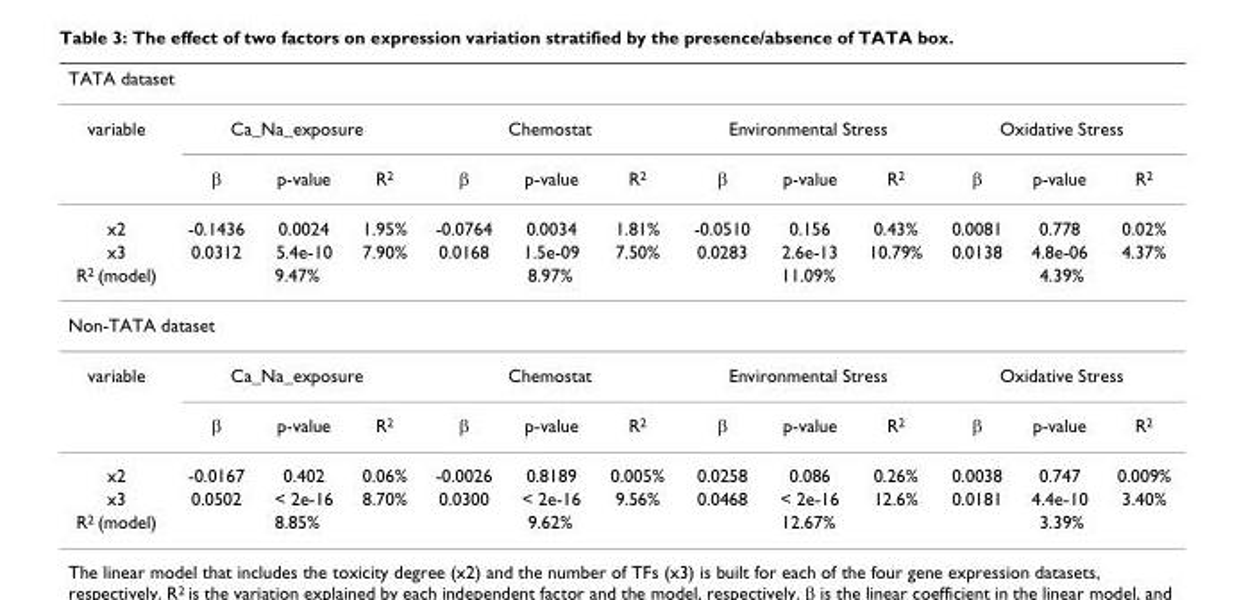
<table><thead><tr><td colspan="13">TATA dataset</td></tr><tr><td rowspan="2">variable</td><td colspan="3">Ca_Na_exposure</td><td colspan="3">Chemostat</td><td colspan="3">Environmental Stress</td><td colspan="3">Oxidative Stress</td></tr><tr><td>β</td><td>p-value</td><td>R<sup>2</sup></td><td>β</td><td>p-value</td><td>R<sup>2</sup></td><td>β</td><td>p-value</td><td>R<sup>2</sup></td><td>β</td><td>p-value</td><td>R<sup>2</sup></td></tr></thead><tbody><tr><td>x2</td><td>-0.1436</td><td>0.0024</td><td>1.95%</td><td>-0.0764</td><td>0.0034</td><td>1.81%</td><td>-0.0510</td><td>0.156</td><td>0.43%</td><td>0.0081</td><td>0.778</td><td>0.02%</td></tr><tr><td>x3</td><td>0.0312</td><td>5.4e-10</td><td>7.90%</td><td>0.0168</td><td>1.5e-09</td><td>7.50%</td><td>0.0283</td><td>2.6e-13</td><td>10.79%</td><td>0.0138</td><td>4.8e-06</td><td>4.37%</td></tr><tr><td>R<sup>2</sup> (model)</td><td colspan="3">9.47%</td><td colspan="3">8.97%</td><td colspan="3">11.09%</td><td colspan="3">4.39%</td></tr><tr><td colspan="13">Non-TATA dataset</td></tr><tr><td rowspan="2">variable</td><td colspan="3">Ca_Na_exposure</td><td colspan="3">Chemostat</td><td colspan="3">Environmental Stress</td><td colspan="3">Oxidative Stress</td></tr><tr><td>β</td><td>p-value</td><td>R<sup>2</sup></td><td>β</td><td>p-value</td><td>R<sup>2</sup></td><td>β</td><td>p-value</td><td>R<sup>2</sup></td><td>β</td><td>p-value</td><td>R<sup>2</sup></td></tr><tr><td>x2</td><td>-0.0167</td><td>0.402</td><td>0.06%</td><td>-0.0026</td><td>0.8189</td><td>0.005%</td><td>0.0258</td><td>0.086</td><td>0.26%</td><td>0.0038</td><td>0.747</td><td>0.009%</td></tr><tr><td>x3</td><td>0.0502</td><td>&lt; 2e-16</td><td>8.70%</td><td>0.0300</td><td>&lt; 2e-16</td><td>9.56%</td><td>0.0468</td><td>&lt; 2e-16</td><td>12.6%</td><td>0.0181</td><td>4.4e-10</td><td>3.40%</td></tr><tr><td>R<sup>2</sup> (model)</td><td colspan="3">8.85%</td><td colspan="3">9.62%</td><td colspan="3">12.67%</td><td colspan="3">3.39%</td></tr></tbody></table>